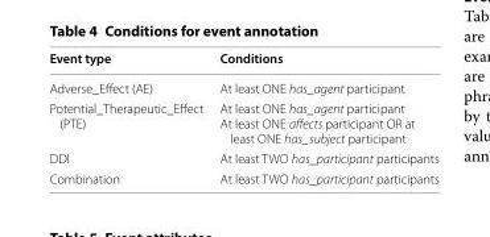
<table><thead><tr><td>Event type</td><td>Conditions</td></tr></thead><tbody><tr><td>Adverse_Effect (AE)</td><td>At least ONE has_agent participant</td></tr><tr><td>Potential_Therapeutic_Effect (PTE)</td><td>At least ONE has_agent participant At least ONE affects participant OR at least ONE has_subject participant</td></tr><tr><td>DDI</td><td>At least TWO has_participant participants</td></tr><tr><td>Combination</td><td>At least TWO has_participant participants</td></tr></tbody></table>